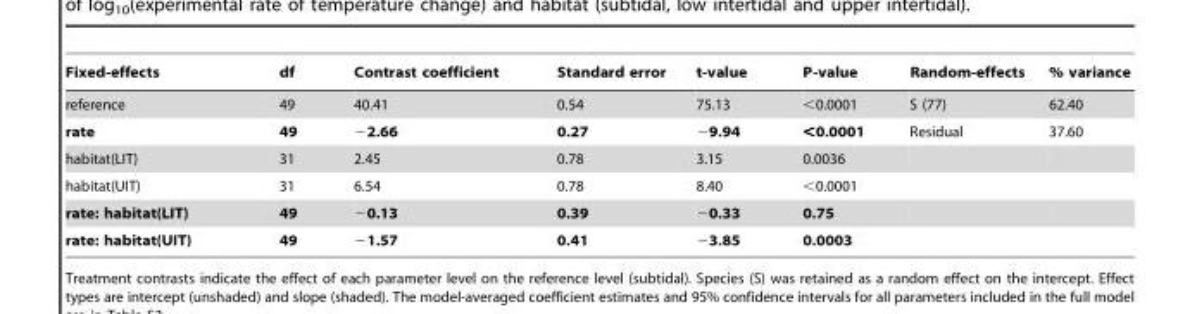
<table><thead><tr><td>Fixed-effects</td><td>df</td><td>Contrast coefficient</td><td>Standard error</td><td>t-value</td><td>P-value</td><td>Random-effects</td><td>% variance</td></tr></thead><tbody><tr><td>reference</td><td>49</td><td>40.41</td><td>0.54</td><td>75.13</td><td>&lt;0.0001</td><td>S (77)</td><td>62.40</td></tr><tr><td>rate</td><td>49</td><td>−2.66</td><td>0.27</td><td>−9.94</td><td>&lt;0.0001</td><td>Residual</td><td>37.60</td></tr><tr><td>habitat(LIT)</td><td>31</td><td>2.45</td><td>0.78</td><td>3.15</td><td>0.0036</td><td></td><td></td></tr><tr><td>habitat(UIT)</td><td>31</td><td>6.54</td><td>0.78</td><td>8.40</td><td>&lt;0.0001</td><td></td><td></td></tr><tr><td>rate: habitat(LIT)</td><td>49</td><td>−0.13</td><td>0.39</td><td>−0.33</td><td>0.75</td><td></td><td></td></tr><tr><td>rate: habitat(UIT)</td><td>49</td><td>−1.57</td><td>0.41</td><td>−3.85</td><td>0.0003</td><td></td><td></td></tr></tbody></table>